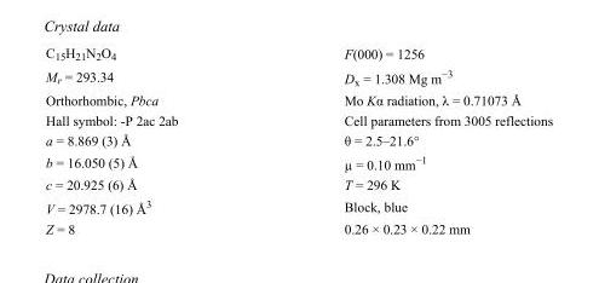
<table><tbody><tr><td>C<sub>15</sub>H<sub>21</sub>N<sub>2</sub>O<sub>4</sub></td><td>F(000) = 1256</td></tr><tr><td>M<sub>r</sub> = 293.34</td><td>D<sub>x</sub> = 1.308 Mg m<sup>−3</sup></td></tr><tr><td>Orthorhombic, Pbca</td><td>Mo Kα radiation, λ = 0.71073 Å</td></tr><tr><td>Hall symbol: -P 2ac 2ab</td><td>Cell parameters from 3005 reflections</td></tr><tr><td>a = 8.869 (3) Å</td><td>θ = 2.5–21.6°</td></tr><tr><td>b = 16.050 (5) Å</td><td>µ = 0.10 mm<sup>−1</sup></td></tr><tr><td>c = 20.925 (6) Å</td><td>T = 296 K</td></tr><tr><td>V = 2978.7 (16) Å<sup>3</sup></td><td>Block, blue</td></tr><tr><td>Z = 8</td><td>0.26 × 0.23 × 0.22 mm</td></tr></tbody></table>